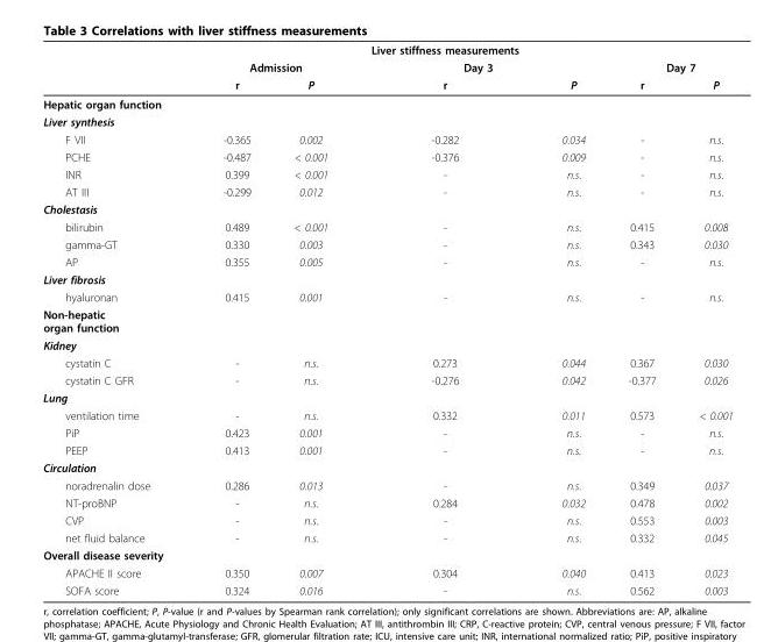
<table><thead><tr><td rowspan="3"></td><td></td><td></td><td>Liver stiffness measurements</td><td></td><td></td><td></td></tr><tr><td colspan="2">Admission</td><td colspan="2">Day 3</td><td colspan="2">Day 7</td></tr><tr><td>r</td><td>P</td><td>r</td><td>P</td><td>r</td><td>P</td></tr></thead><tbody><tr><td colspan="7">Hepatic organ function</td></tr><tr><td colspan="7">Liver synthesis</td></tr><tr><td>F VII</td><td>-0.365</td><td>0.002</td><td>-0.282</td><td>0.034</td><td>-</td><td>n.s.</td></tr><tr><td>PCHE</td><td>-0.487</td><td>&lt; 0.001</td><td>-0.376</td><td>0.009</td><td>-</td><td>n.s.</td></tr><tr><td>INR</td><td>0.399</td><td>&lt; 0.001</td><td>-</td><td>n.s.</td><td>-</td><td>n.s.</td></tr><tr><td>AT III</td><td>-0.299</td><td>0.012</td><td>-</td><td>n.s.</td><td>-</td><td>n.s.</td></tr><tr><td colspan="7">Cholestasis</td></tr><tr><td>bilirubin</td><td>0.489</td><td>&lt; 0.001</td><td>-</td><td>n.s.</td><td>0.415</td><td>0.008</td></tr><tr><td>gamma-GT</td><td>0.330</td><td>0.003</td><td>-</td><td>n.s.</td><td>0.343</td><td>0.030</td></tr><tr><td>AP</td><td>0.355</td><td>0.005</td><td>-</td><td>n.s.</td><td>-</td><td>n.s.</td></tr><tr><td colspan="7">Liver fibrosis</td></tr><tr><td>hyaluronan</td><td>0.415</td><td>0.001</td><td>-</td><td>n.s.</td><td>-</td><td>n.s.</td></tr><tr><td colspan="7">Non-hepatic organ function</td></tr><tr><td colspan="7">Kidney</td></tr><tr><td>cystatin C</td><td>-</td><td>n.s.</td><td>0.273</td><td>0.044</td><td>0.367</td><td>0.030</td></tr><tr><td>cystatin C GFR</td><td>-</td><td>n.s.</td><td>-0.276</td><td>0.042</td><td>-0.377</td><td>0.026</td></tr><tr><td colspan="7">Lung</td></tr><tr><td>ventilation time</td><td>-</td><td>n.s.</td><td>0.332</td><td>0.011</td><td>0.573</td><td>&lt; 0.001</td></tr><tr><td>PiP</td><td>0.423</td><td>0.001</td><td>-</td><td>n.s.</td><td>-</td><td>n.s.</td></tr><tr><td>PEEP</td><td>0.413</td><td>0.001</td><td>-</td><td>n.s.</td><td>-</td><td>n.s.</td></tr><tr><td colspan="7">Circulation</td></tr><tr><td>noradrenalin dose</td><td>0.286</td><td>0.013</td><td>-</td><td>n.s.</td><td>0.349</td><td>0.037</td></tr><tr><td>NT-proBNP</td><td>-</td><td>n.s.</td><td>0.284</td><td>0.032</td><td>0.478</td><td>0.002</td></tr><tr><td>CVP</td><td>-</td><td>n.s.</td><td>-</td><td>n.s.</td><td>0.553</td><td>0.003</td></tr><tr><td>net fluid balance</td><td>-</td><td>n.s.</td><td>-</td><td>n.s.</td><td>0.332</td><td>0.045</td></tr><tr><td colspan="7">Overall disease severity</td></tr><tr><td>APACHE II score</td><td>0.350</td><td>0.007</td><td>0.304</td><td>0.040</td><td>0.413</td><td>0.023</td></tr><tr><td>SOFA score</td><td>0.324</td><td>0.016</td><td>-</td><td>n.s.</td><td>0.562</td><td>0.003</td></tr></tbody></table>